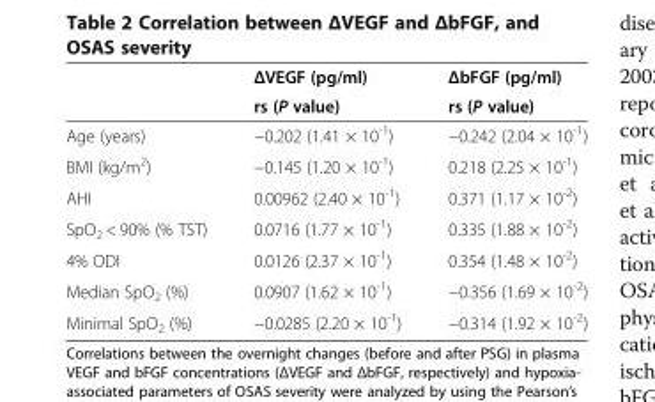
<table><thead><tr><td rowspan="2"></td><td rowspan="2">ΔVEGF (pg/ml) rs (P value)</td><td rowspan="2">ΔbFGF (pg/ml) rs (P value)</td></tr><tr></tr></thead><tbody><tr><td>Age (years)</td><td>−0.202 (1.41 × 10<sup>-1</sup>)</td><td>−0.242 (2.04 × 10<sup>-1</sup>)</td></tr><tr><td>BMI (kg/m<sup>2</sup>)</td><td>−0.145 (1.20 × 10<sup>-1</sup>)</td><td>0.218 (2.25 × 10<sup>-1</sup>)</td></tr><tr><td>AHI</td><td>0.00962 (2.40 × 10<sup>-1</sup>)</td><td>0.371 (1.17 × 10<sup>-2</sup>)</td></tr><tr><td>SpO<sub>2</sub> &lt; 90% (% TST)</td><td>0.0716 (1.77 × 10<sup>-1</sup>)</td><td>0.335 (1.88 × 10<sup>-2</sup>)</td></tr><tr><td>4% ODI</td><td>0.0126 (2.37 × 10<sup>-1</sup>)</td><td>0.354 (1.48 × 10<sup>-2</sup>)</td></tr><tr><td>Median SpO<sub>2</sub> (%)</td><td>0.0907 (1.62 × 10<sup>-1</sup>)</td><td>−0.356 (1.69 × 10<sup>-2</sup>)</td></tr><tr><td>Minimal SpO<sub>2</sub> (%)</td><td>−0.0285 (2.20 × 10<sup>-1</sup>)</td><td>−0.314 (1.92 × 10<sup>-2</sup>)</td></tr></tbody></table>